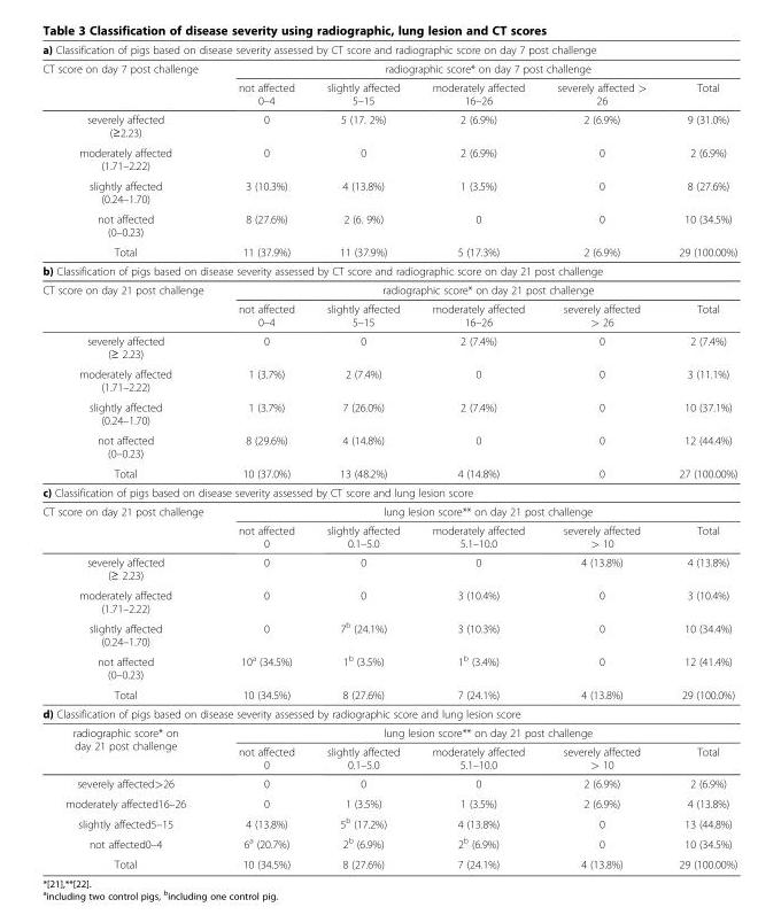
<table><tbody><tr><td colspan="6">a) Classification of pigs based on disease severity assessed by CT score and radiographic score on day 7 post challenge</td></tr><tr><td rowspan="2">CT score on day 7 post challenge</td><td colspan="5">radiographic score* on day 7 post challenge</td></tr><tr><td>not affected 0–4</td><td>slightly affected 5–15</td><td>moderately affected 16–26</td><td>severely affected &gt; 26</td><td>Total</td></tr><tr><td>severely affected (≥2.23)</td><td>0</td><td>5 (17. 2%)</td><td>2 (6.9%)</td><td>2 (6.9%)</td><td>9 (31.0%)</td></tr><tr><td>moderately affected (1.71–2.22)</td><td>0</td><td>0</td><td>2 (6.9%)</td><td>0</td><td>2 (6.9%)</td></tr><tr><td>slightly affected (0.24–1.70)</td><td>3 (10.3%)</td><td>4 (13.8%)</td><td>1 (3.5%)</td><td>0</td><td>8 (27.6%)</td></tr><tr><td>not affected (0–0.23)</td><td>8 (27.6%)</td><td>2 (6. 9%)</td><td>0</td><td>0</td><td>10 (34.5%)</td></tr><tr><td>Total</td><td>11 (37.9%)</td><td>11 (37.9%)</td><td>5 (17.3%)</td><td>2 (6.9%)</td><td>29 (100.00%)</td></tr><tr><td colspan="6">b) Classification of pigs based on disease severity assessed by CT score and radiographic score on day 21 post challenge</td></tr><tr><td rowspan="2">CT score on day 21 post challenge</td><td colspan="5">radiographic score* on day 21 post challenge</td></tr><tr><td>not affected 0–4</td><td>slightly affected 5–15</td><td>moderately affected 16–26</td><td>severely affected &gt; 26</td><td>Total</td></tr><tr><td>severely affected (≥ 2.23)</td><td>0</td><td>0</td><td>2 (7.4%)</td><td>0</td><td>2 (7.4%)</td></tr><tr><td>moderately affected (1.71–2.22)</td><td>1 (3.7%)</td><td>2 (7.4%)</td><td>0</td><td>0</td><td>3 (11.1%)</td></tr><tr><td>slightly affected (0.24–1.70)</td><td>1 (3.7%)</td><td>7 (26.0%)</td><td>2 (7.4%)</td><td>0</td><td>10 (37.1%)</td></tr><tr><td>not affected (0–0.23)</td><td>8 (29.6%)</td><td>4 (14.8%)</td><td>0</td><td>0</td><td>12 (44.4%)</td></tr><tr><td>Total</td><td>10 (37.0%)</td><td>13 (48.2%)</td><td>4 (14.8%)</td><td>0</td><td>27 (100.00%)</td></tr><tr><td colspan="6">c) Classification of pigs based on disease severity assessed by CT score and lung lesion score</td></tr><tr><td rowspan="2">CT score on day 21 post challenge</td><td colspan="5">lung lesion score** on day 21 post challenge</td></tr><tr><td>not affected 0</td><td>slightly affected 0.1–5.0</td><td>moderately affected 5.1–10.0</td><td>severely affected &gt; 10</td><td>Total</td></tr><tr><td>severely affected (≥ 2.23)</td><td>0</td><td>0</td><td>0</td><td>4 (13.8%)</td><td>4 (13.8%)</td></tr><tr><td>moderately affected (1.71–2.22)</td><td>0</td><td>0</td><td>3 (10.4%)</td><td>0</td><td>3 (10.4%)</td></tr><tr><td>slightly affected (0.24–1.70)</td><td>0</td><td>7<sup>b</sup> (24.1%)</td><td>3 (10.3%)</td><td>0</td><td>10 (34.4%)</td></tr><tr><td>not affected (0–0.23)</td><td>10<sup>a</sup> (34.5%)</td><td>1<sup>b</sup> (3.5%)</td><td>1<sup>b</sup> (3.4%)</td><td>0</td><td>12 (41.4%)</td></tr><tr><td>Total</td><td>10 (34.5%)</td><td>8 (27.6%)</td><td>7 (24.1%)</td><td>4 (13.8%)</td><td>29 (100.0%)</td></tr><tr><td colspan="6">d) Classification of pigs based on disease severity assessed by radiographic score and lung lesion score</td></tr><tr><td rowspan="2">radiographic score* on day 21 post challenge</td><td colspan="5">lung lesion score** on day 21 post challenge</td></tr><tr><td>not affected 0</td><td>slightly affected 0.1–5.0</td><td>moderately affected 5.1–10.0</td><td>severely affected &gt; 10</td><td>Total</td></tr><tr><td>severely affected&gt;26</td><td>0</td><td>0</td><td>0</td><td>2 (6.9%)</td><td>2 (6.9%)</td></tr><tr><td>moderately affected16–26</td><td>0</td><td>1 (3.5%)</td><td>1 (3.5%)</td><td>2 (6.9%)</td><td>4 (13.8%)</td></tr><tr><td>slightly affected5–15</td><td>4 (13.8%)</td><td>5<sup>b</sup> (17.2%)</td><td>4 (13.8%)</td><td>0</td><td>13 (44.8%)</td></tr><tr><td>not affected0–4</td><td>6<sup>a</sup> (20.7%)</td><td>2<sup>b</sup> (6.9%)</td><td>2<sup>b</sup> (6.9%)</td><td>0</td><td>10 (34.5%)</td></tr><tr><td>Total</td><td>10 (34.5%)</td><td>8 (27.6%)</td><td>7 (24.1%)</td><td>4 (13.8%)</td><td>29 (100.00%)</td></tr></tbody></table>